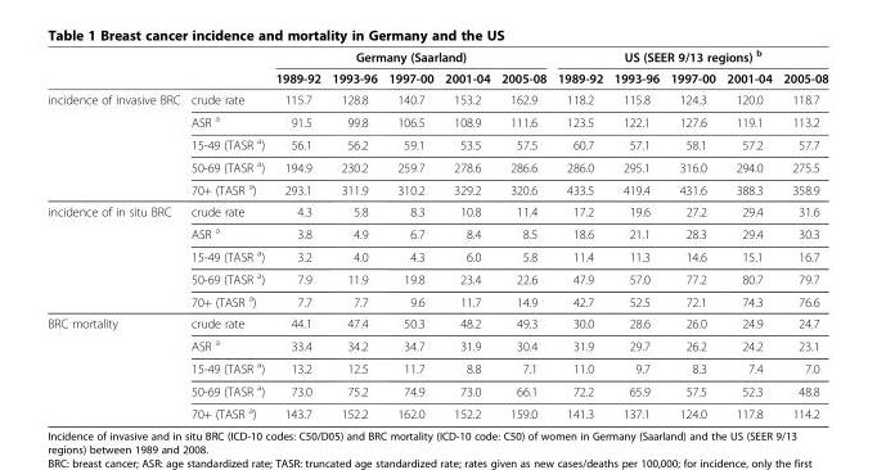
<table><thead><tr><td rowspan="2"></td><td rowspan="2"></td><td colspan="5">Germany (Saarland)</td><td colspan="5">US (SEER 9/13 regions) <sup>b</sup></td></tr><tr><td>1989-92</td><td>1993-96</td><td>1997-00</td><td>2001-04</td><td>2005-08</td><td>1989-92</td><td>1993-96</td><td>1997-00</td><td>2001-04</td><td>2005-08</td></tr></thead><tbody><tr><td rowspan="5">incidence of invasive BRC</td><td>crude rate</td><td>115.7</td><td>128.8</td><td>140.7</td><td>153.2</td><td>162.9</td><td>118.2</td><td>115.8</td><td>124.3</td><td>120.0</td><td>118.7</td></tr><tr><td>ASR <sup>a</sup></td><td>91.5</td><td>99.8</td><td>106.5</td><td>108.9</td><td>111.6</td><td>123.5</td><td>122.1</td><td>127.6</td><td>119.1</td><td>113.2</td></tr><tr><td>15-49 (TASR <sup>a</sup>)</td><td>56.1</td><td>56.2</td><td>59.1</td><td>53.5</td><td>57.5</td><td>60.7</td><td>57.1</td><td>58.1</td><td>57.2</td><td>57.7</td></tr><tr><td>50-69 (TASR <sup>a</sup>)</td><td>194.9</td><td>230.2</td><td>259.7</td><td>278.6</td><td>286.6</td><td>286.0</td><td>295.1</td><td>316.0</td><td>294.0</td><td>275.5</td></tr><tr><td>70+ (TASR <sup>a</sup>)</td><td>293.1</td><td>311.9</td><td>310.2</td><td>329.2</td><td>320.6</td><td>433.5</td><td>419.4</td><td>431.6</td><td>388.3</td><td>358.9</td></tr><tr><td rowspan="5">incidence of in situ BRC</td><td>crude rate</td><td>4.3</td><td>5.8</td><td>8.3</td><td>10.8</td><td>11.4</td><td>17.2</td><td>19.6</td><td>27.2</td><td>29.4</td><td>31.6</td></tr><tr><td>ASR <sup>a</sup></td><td>3.8</td><td>4.9</td><td>6.7</td><td>8.4</td><td>8.5</td><td>18.6</td><td>21.1</td><td>28.3</td><td>29.4</td><td>30.3</td></tr><tr><td>15-49 (TASR <sup>a</sup>)</td><td>3.2</td><td>4.0</td><td>4.3</td><td>6.0</td><td>5.8</td><td>11.4</td><td>11.3</td><td>14.6</td><td>15.1</td><td>16.7</td></tr><tr><td>50-69 (TASR <sup>a</sup>)</td><td>7.9</td><td>11.9</td><td>19.8</td><td>23.4</td><td>22.6</td><td>47.9</td><td>57.0</td><td>77.2</td><td>80.7</td><td>79.7</td></tr><tr><td>70+ (TASR <sup>a</sup>)</td><td>7.7</td><td>7.7</td><td>9.6</td><td>11.7</td><td>14.9</td><td>42.7</td><td>52.5</td><td>72.1</td><td>74.3</td><td>76.6</td></tr><tr><td rowspan="5">BRC mortality</td><td>crude rate</td><td>44.1</td><td>47.4</td><td>50.3</td><td>48.2</td><td>49.3</td><td>30.0</td><td>28.6</td><td>26.0</td><td>24.9</td><td>24.7</td></tr><tr><td>ASR <sup>a</sup></td><td>33.4</td><td>34.2</td><td>34.7</td><td>31.9</td><td>30.4</td><td>31.9</td><td>29.7</td><td>26.2</td><td>24.2</td><td>23.1</td></tr><tr><td>15-49 (TASR <sup>a</sup>)</td><td>13.2</td><td>12.5</td><td>11.7</td><td>8.8</td><td>7.1</td><td>11.0</td><td>9.7</td><td>8.3</td><td>7.4</td><td>7.0</td></tr><tr><td>50-69 (TASR <sup>a</sup>)</td><td>73.0</td><td>75.2</td><td>74.9</td><td>73.0</td><td>66.1</td><td>72.2</td><td>65.9</td><td>57.5</td><td>52.3</td><td>48.8</td></tr><tr><td>70+ (TASR <sup>a</sup>)</td><td>143.7</td><td>152.2</td><td>162.0</td><td>152.2</td><td>159.0</td><td>141.3</td><td>137.1</td><td>124.0</td><td>117.8</td><td>114.2</td></tr></tbody></table>